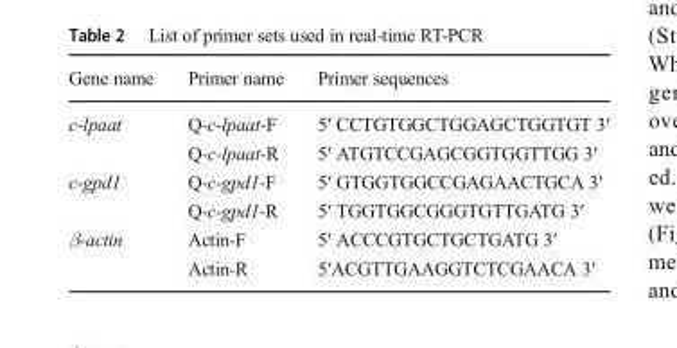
<table><thead><tr><td>Gene name</td><td>Primer name</td><td>Primer sequences</td></tr></thead><tbody><tr><td rowspan="2">c-lpaat</td><td>Q-c-lpaat-F</td><td>5′ CCTGTGGCTGGAGCTGGTGT 3′</td></tr><tr><td>Q-c-lpaat-R</td><td>5′ ATGTCCGAGCGGTGGTTGG 3′</td></tr><tr><td rowspan="2">c-gpd1</td><td>Q-c-gpd1-F</td><td>5′ GTGGTGGCCGAGAACTGCA 3′</td></tr><tr><td>Q-c-gpd1-R</td><td>5′ TGGTGGCGGGTGTTGATG 3′</td></tr><tr><td rowspan="2">β-actin</td><td>Actin-F</td><td>5′ ACCCGTGCTGCTGATG 3′</td></tr><tr><td>Actin-R</td><td>5′ACGTTGAAGGTCTCGAACA 3′</td></tr></tbody></table>